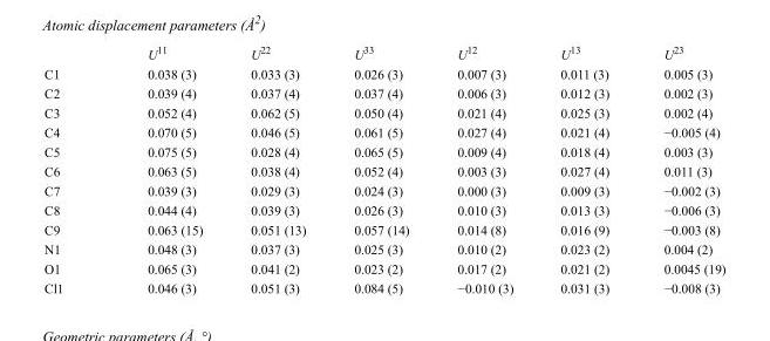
<table><thead><tr><td></td><td>U<sup>11</sup></td><td>U<sup>22</sup></td><td>U<sup>33</sup></td><td>U<sup>12</sup></td><td>U<sup>13</sup></td><td>U<sup>23</sup></td></tr></thead><tbody><tr><td>C1</td><td>0.038 (3)</td><td>0.033 (3)</td><td>0.026 (3)</td><td>0.007 (3)</td><td>0.011 (3)</td><td>0.005 (3)</td></tr><tr><td>C2</td><td>0.039 (4)</td><td>0.037 (4)</td><td>0.037 (4)</td><td>0.006 (3)</td><td>0.012 (3)</td><td>0.002 (3)</td></tr><tr><td>C3</td><td>0.052 (4)</td><td>0.062 (5)</td><td>0.050 (4)</td><td>0.021 (4)</td><td>0.025 (3)</td><td>0.002 (4)</td></tr><tr><td>C4</td><td>0.070 (5)</td><td>0.046 (5)</td><td>0.061 (5)</td><td>0.027 (4)</td><td>0.021 (4)</td><td>−0.005 (4)</td></tr><tr><td>C5</td><td>0.075 (5)</td><td>0.028 (4)</td><td>0.065 (5)</td><td>0.009 (4)</td><td>0.018 (4)</td><td>0.003 (3)</td></tr><tr><td>C6</td><td>0.063 (5)</td><td>0.038 (4)</td><td>0.052 (4)</td><td>0.003 (3)</td><td>0.027 (4)</td><td>0.011 (3)</td></tr><tr><td>C7</td><td>0.039 (3)</td><td>0.029 (3)</td><td>0.024 (3)</td><td>0.000 (3)</td><td>0.009 (3)</td><td>−0.002 (3)</td></tr><tr><td>C8</td><td>0.044 (4)</td><td>0.039 (3)</td><td>0.026 (3)</td><td>0.010 (3)</td><td>0.013 (3)</td><td>−0.006 (3)</td></tr><tr><td>C9</td><td>0.063 (15)</td><td>0.051 (13)</td><td>0.057 (14)</td><td>0.014 (8)</td><td>0.016 (9)</td><td>−0.003 (8)</td></tr><tr><td>N1</td><td>0.048 (3)</td><td>0.037 (3)</td><td>0.025 (3)</td><td>0.010 (2)</td><td>0.023 (2)</td><td>0.004 (2)</td></tr><tr><td>O1</td><td>0.065 (3)</td><td>0.041 (2)</td><td>0.023 (2)</td><td>0.017 (2)</td><td>0.021 (2)</td><td>0.0045 (19)</td></tr><tr><td>Cl1</td><td>0.046 (3)</td><td>0.051 (3)</td><td>0.084 (5)</td><td>−0.010 (3)</td><td>0.031 (3)</td><td>−0.008 (3)</td></tr></tbody></table>